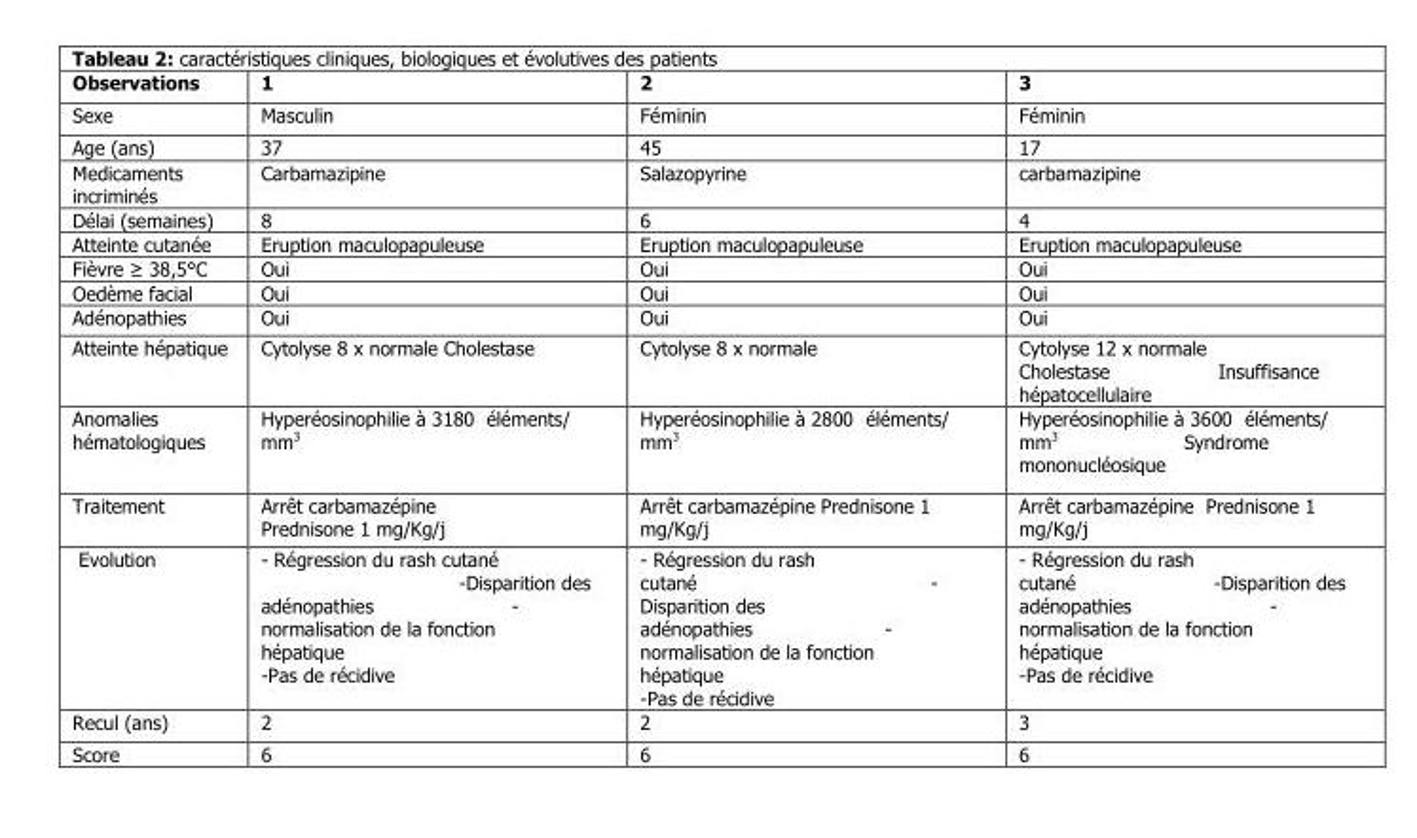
<table><thead><tr><td>Observations</td><td>1</td><td>2</td><td>3</td></tr></thead><tbody><tr><td>Sexe</td><td>Masculin</td><td>Féminin</td><td>Féminin</td></tr><tr><td>Age (ans)</td><td>37</td><td>45</td><td>17</td></tr><tr><td>Medicaments incriminés</td><td>Carbamazipine</td><td>Salazopyrine</td><td>carbamazipine</td></tr><tr><td>Délai (semaines)</td><td>8</td><td>6</td><td>4</td></tr><tr><td>Atteinte cutanée</td><td>Eruption maculopapuleuse</td><td>Eruption maculopapuleuse</td><td>Eruption maculopapuleuse</td></tr><tr><td>Fièvre ≥ 38,5°C</td><td>Oui</td><td>Oui</td><td>Oui</td></tr><tr><td>Oedème facial</td><td>Oui</td><td>Oui</td><td>Oui</td></tr><tr><td>Adénopathies</td><td>Oui</td><td>Oui</td><td>Oui</td></tr><tr><td>Atteinte hépatique</td><td>Cytolyse 8 x normale Cholestase</td><td>Cytolyse 8 x normale</td><td>Cytolyse 12 x normale Cholestase Insuffisance hépatocellulaire</td></tr><tr><td>Anomalies hématologiques</td><td>Hyperéosinophilie à 3180 éléments/ mm<sup>3</sup></td><td>Hyperéosinophilie à 2800 éléments/ mm<sup>3</sup></td><td>Hyperéosinophilie à 3600 éléments/ mm<sup>3</sup> Syndrome mononucléosique</td></tr><tr><td>Traitement</td><td>Arrêt carbamazépine Prednisone 1 mg/Kg/j</td><td>Arrêt carbamazépine Prednisone 1 mg/Kg/j</td><td>Arrêt carbamazépine Prednisone 1 mg/Kg/j</td></tr><tr><td>Evolution</td><td>- Régression du rash cutané -Disparition des adénopathies - normalisation de la fonction hépatique -Pas de récidive</td><td>- Régression du rash cutané - Disparition des adénopathies - normalisation de la fonction hépatique -Pas de récidive</td><td>- Régression du rash cutané -Disparition des adénopathies - normalisation de la fonction hépatique -Pas de récidive</td></tr><tr><td>Recul (ans)</td><td>2</td><td>2</td><td>3</td></tr><tr><td>Score</td><td>6</td><td>6</td><td>6</td></tr></tbody></table>